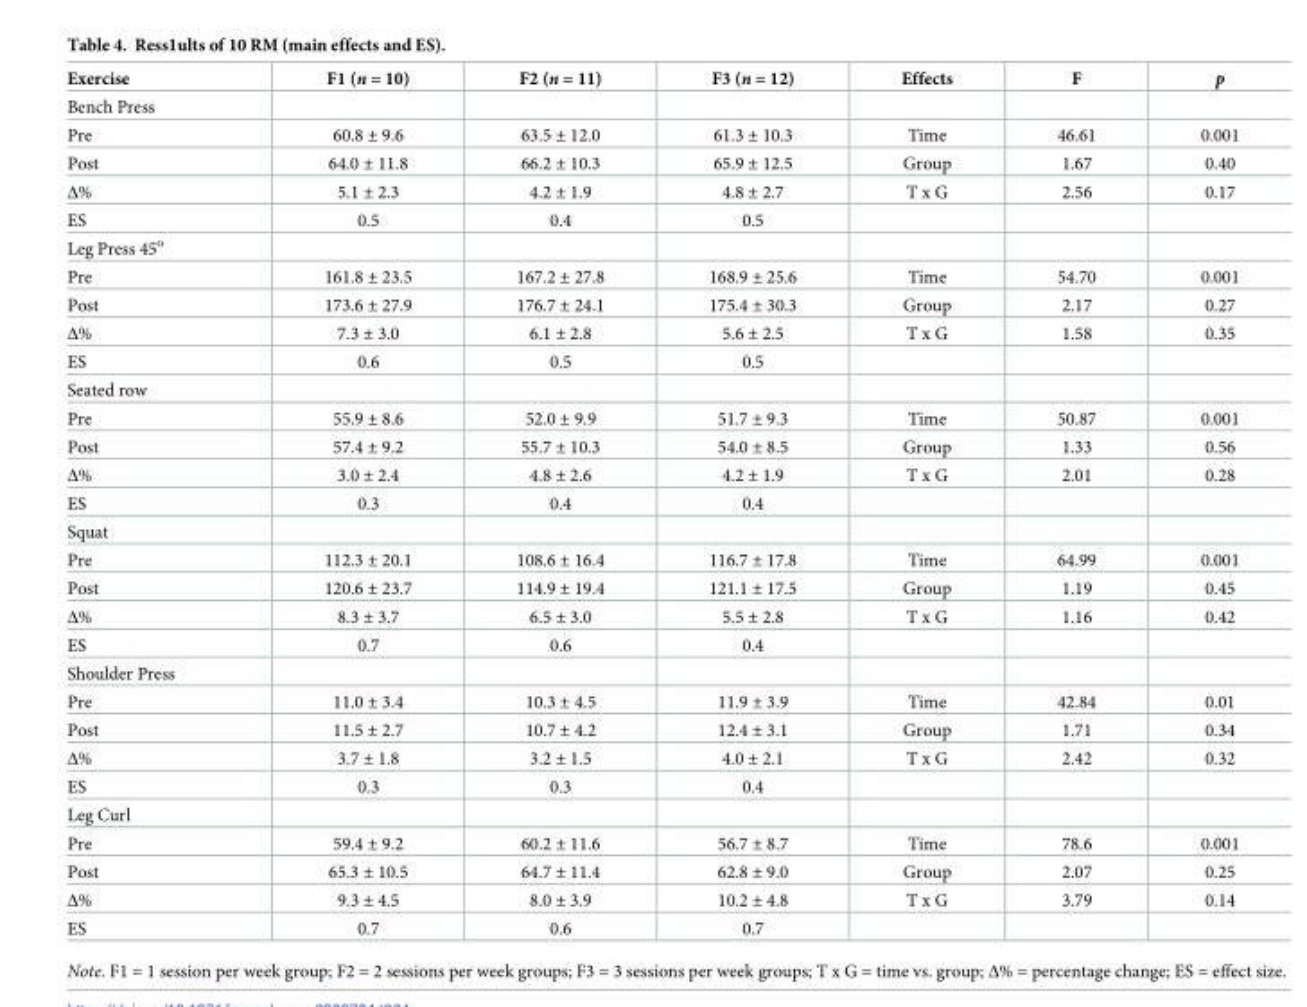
<table><thead><tr><td>Exercise</td><td>F1 (n = 10)</td><td>F2 (n = 11)</td><td>F3 (n = 12)</td><td>Effects</td><td>F</td><td>p</td></tr></thead><tbody><tr><td colspan="7">Bench Press</td></tr><tr><td>Pre</td><td>60.8 ± 9.6</td><td>63.5 ± 12.0</td><td>61.3 ± 10.3</td><td>Time</td><td>46.61</td><td>0.001</td></tr><tr><td>Post</td><td>64.0 ± 11.8</td><td>66.2 ± 10.3</td><td>65.9 ± 12.5</td><td>Group</td><td>1.67</td><td>0.40</td></tr><tr><td>Δ%</td><td>5.1 ± 2.3</td><td>4.2 ± 1.9</td><td>4.8 ± 2.7</td><td>T x G</td><td>2.56</td><td>0.17</td></tr><tr><td>ES</td><td>0.5</td><td>0.4</td><td>0.5</td><td></td><td></td><td></td></tr><tr><td colspan="7">Leg Press 45<sup>o</sup></td></tr><tr><td>Pre</td><td>161.8 ± 23.5</td><td>167.2 ± 27.8</td><td>168.9 ± 25.6</td><td>Time</td><td>54.70</td><td>0.001</td></tr><tr><td>Post</td><td>173.6 ± 27.9</td><td>176.7 ± 24.1</td><td>175.4 ± 30.3</td><td>Group</td><td>2.17</td><td>0.27</td></tr><tr><td>Δ%</td><td>7.3 ± 3.0</td><td>6.1 ± 2.8</td><td>5.6 ± 2.5</td><td>T x G</td><td>1.58</td><td>0.35</td></tr><tr><td>ES</td><td>0.6</td><td>0.5</td><td>0.5</td><td></td><td></td><td></td></tr><tr><td colspan="7">Seated row</td></tr><tr><td>Pre</td><td>55.9 ± 8.6</td><td>52.0 ± 9.9</td><td>51.7 ± 9.3</td><td>Time</td><td>50.87</td><td>0.001</td></tr><tr><td>Post</td><td>57.4 ± 9.2</td><td>55.7 ± 10.3</td><td>54.0 ± 8.5</td><td>Group</td><td>1.33</td><td>0.56</td></tr><tr><td>Δ%</td><td>3.0 ± 2.4</td><td>4.8 ± 2.6</td><td>4.2 ± 1.9</td><td>T x G</td><td>2.01</td><td>0.28</td></tr><tr><td>ES</td><td>0.3</td><td>0.4</td><td>0.4</td><td></td><td></td><td></td></tr><tr><td colspan="7">Squat</td></tr><tr><td>Pre</td><td>112.3 ± 20.1</td><td>108.6 ± 16.4</td><td>116.7 ± 17.8</td><td>Time</td><td>64.99</td><td>0.001</td></tr><tr><td>Post</td><td>120.6 ± 23.7</td><td>114.9 ± 19.4</td><td>121.1 ± 17.5</td><td>Group</td><td>1.19</td><td>0.45</td></tr><tr><td>Δ%</td><td>8.3 ± 3.7</td><td>6.5 ± 3.0</td><td>5.5 ± 2.8</td><td>T x G</td><td>1.16</td><td>0.42</td></tr><tr><td>ES</td><td>0.7</td><td>0.6</td><td>0.4</td><td></td><td></td><td></td></tr><tr><td colspan="7">Shoulder Press</td></tr><tr><td>Pre</td><td>11.0 ± 3.4</td><td>10.3 ± 4.5</td><td>11.9 ± 3.9</td><td>Time</td><td>42.84</td><td>0.01</td></tr><tr><td>Post</td><td>11.5 ± 2.7</td><td>10.7 ± 4.2</td><td>12.4 ± 3.1</td><td>Group</td><td>1.71</td><td>0.34</td></tr><tr><td>Δ%</td><td>3.7 ± 1.8</td><td>3.2 ± 1.5</td><td>4.0 ± 2.1</td><td>T x G</td><td>2.42</td><td>0.32</td></tr><tr><td>ES</td><td>0.3</td><td>0.3</td><td>0.4</td><td></td><td></td><td></td></tr><tr><td colspan="7">Leg Curl</td></tr><tr><td>Pre</td><td>59.4 ± 9.2</td><td>60.2 ± 11.6</td><td>56.7 ± 8.7</td><td>Time</td><td>78.6</td><td>0.001</td></tr><tr><td>Post</td><td>65.3 ± 10.5</td><td>64.7 ± 11.4</td><td>62.8 ± 9.0</td><td>Group</td><td>2.07</td><td>0.25</td></tr><tr><td>Δ%</td><td>9.3 ± 4.5</td><td>8.0 ± 3.9</td><td>10.2 ± 4.8</td><td>T x G</td><td>3.79</td><td>0.14</td></tr><tr><td>ES</td><td>0.7</td><td>0.6</td><td>0.7</td><td></td><td></td><td></td></tr></tbody></table>